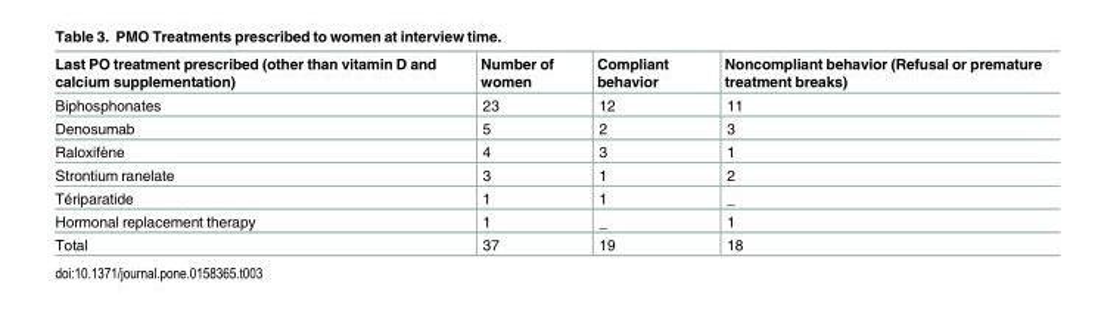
<table><thead><tr><td>Last PO treatment prescribed (other than vitamin D and calcium supplementation)</td><td>Number of women</td><td>Compliant behavior</td><td>Noncompliant behavior (Refusal or premature treatment breaks)</td></tr></thead><tbody><tr><td>Biphosphonates</td><td>23</td><td>12</td><td>11</td></tr><tr><td>Denosumab</td><td>5</td><td>2</td><td>3</td></tr><tr><td>Raloxifène</td><td>4</td><td>3</td><td>1</td></tr><tr><td>Strontium ranelate</td><td>3</td><td>1</td><td>2</td></tr><tr><td>Tériparatide</td><td>1</td><td>1</td><td>_</td></tr><tr><td>Hormonal replacement therapy</td><td>1</td><td>_</td><td>1</td></tr><tr><td>Total</td><td>37</td><td>19</td><td>18</td></tr></tbody></table>